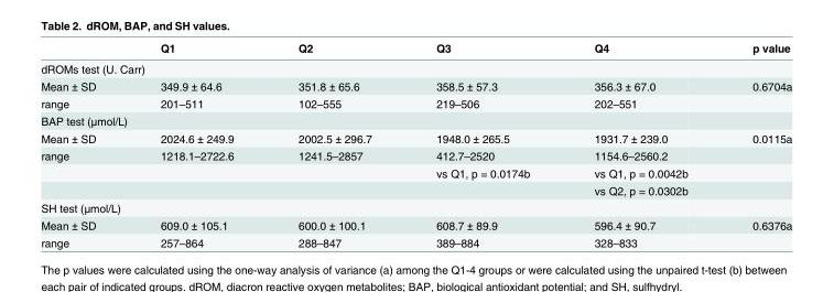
<table><thead><tr><td></td><td>Q1</td><td>Q2</td><td>Q3</td><td>Q4</td><td>p value</td></tr></thead><tbody><tr><td colspan="6">dROMs test (U. Carr)</td></tr><tr><td>Mean ± SD</td><td>349.9 ± 64.6</td><td>351.8 ± 65.6</td><td>358.5 ± 57.3</td><td>356.3 ± 67.0</td><td>0.6704a</td></tr><tr><td>range</td><td>201–511</td><td>102–555</td><td>219–506</td><td>202–551</td><td></td></tr><tr><td colspan="6">BAP test (μmol/L)</td></tr><tr><td>Mean ± SD</td><td>2024.6 ± 249.9</td><td>2002.5 ± 296.7</td><td>1948.0 ± 265.5</td><td>1931.7 ± 239.0</td><td>0.0115a</td></tr><tr><td rowspan="3">range</td><td>1218.1–2722.6</td><td>1241.5–2857</td><td>412.7–2520</td><td>1154.6–2560.2</td><td></td></tr><tr><td></td><td></td><td>vs Q1, p = 0.0174b</td><td>vs Q1, p = 0.0042b</td><td></td></tr><tr><td></td><td></td><td></td><td>vs Q2, p = 0.0302b</td><td></td></tr><tr><td colspan="6">SH test (μmol/L)</td></tr><tr><td>Mean ± SD</td><td>609.0 ± 105.1</td><td>600.0 ± 100.1</td><td>608.7 ± 89.9</td><td>596.4 ± 90.7</td><td>0.6376a</td></tr><tr><td>range</td><td>257–864</td><td>288–847</td><td>389–884</td><td>328–833</td><td></td></tr></tbody></table>